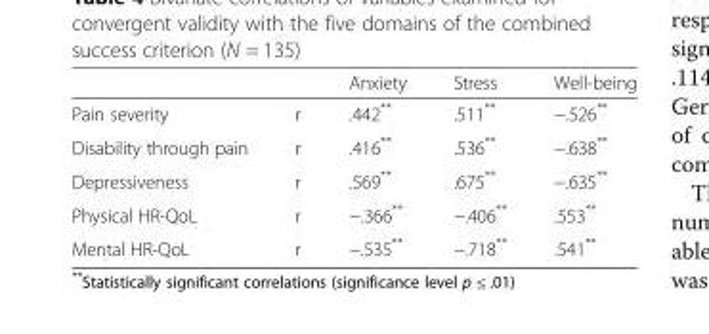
<table><thead><tr><td></td><td></td><td>Anxiety</td><td>Stress</td><td>Well-being</td></tr></thead><tbody><tr><td>Pain severity</td><td>r</td><td>.442**</td><td>.511**</td><td>−.526**</td></tr><tr><td>Disability through pain</td><td>r</td><td>.416**</td><td>.536**</td><td>−.638**</td></tr><tr><td>Depressiveness</td><td>r</td><td>.569**</td><td>.675**</td><td>−.635**</td></tr><tr><td>Physical HR-QoL</td><td>r</td><td>−.366**</td><td>−.406**</td><td>.553**</td></tr><tr><td>Mental HR-QoL</td><td>r</td><td>−.535**</td><td>−.718**</td><td>.541**</td></tr></tbody></table>